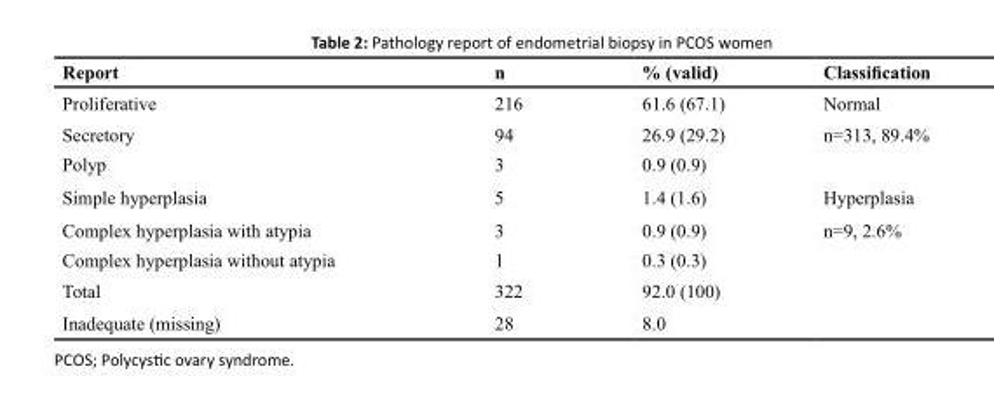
<table><thead><tr><td>Report</td><td>n</td><td>% (valid)</td><td>Classification</td></tr></thead><tbody><tr><td>Proliferative</td><td>216</td><td>61.6 (67.1)</td><td>Normal</td></tr><tr><td>Secretory</td><td>94</td><td>26.9 (29.2)</td><td>n=313, 89.4%</td></tr><tr><td>Polyp</td><td>3</td><td>0.9 (0.9)</td><td></td></tr><tr><td>Simple hyperplasia</td><td>5</td><td>1.4 (1.6)</td><td>Hyperplasia</td></tr><tr><td>Complex hyperplasia with atypia</td><td>3</td><td>0.9 (0.9)</td><td>n=9, 2.6%</td></tr><tr><td>Complex hyperplasia without atypia</td><td>1</td><td>0.3 (0.3)</td><td></td></tr><tr><td>Total</td><td>322</td><td>92.0 (100)</td><td></td></tr><tr><td>Inadequate (missing)</td><td>28</td><td>8.0</td><td></td></tr></tbody></table>